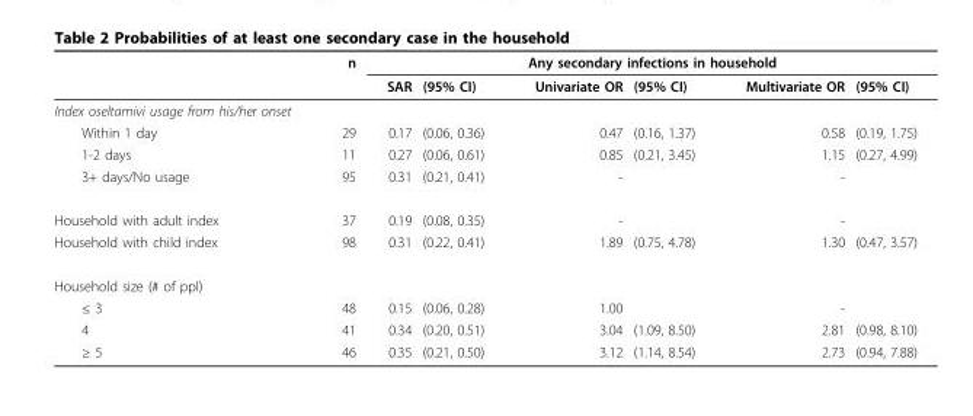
<table><thead><tr><td rowspan="2"></td><td rowspan="2">n</td><td colspan="6">Any secondary infections in household</td></tr><tr><td>SAR</td><td>(95% CI)</td><td>Univariate OR</td><td>(95% CI)</td><td>Multivariate OR</td><td>(95% CI)</td></tr></thead><tbody><tr><td colspan="8">Index oseltamivi usage from his/her onset</td></tr><tr><td>Within 1 day</td><td>29</td><td>0.17</td><td>(0.06, 0.36)</td><td>0.47</td><td>(0.16, 1.37)</td><td>0.58</td><td>(0.19, 1.75)</td></tr><tr><td>1-2 days</td><td>11</td><td>0.27</td><td>(0.06, 0.61)</td><td>0.85</td><td>(0.21, 3.45)</td><td>1.15</td><td>(0.27, 4.99)</td></tr><tr><td>3+ days/No usage</td><td>95</td><td>0.31</td><td>(0.21, 0.41)</td><td>-</td><td></td><td>-</td><td></td></tr><tr><td>Household with adult index</td><td>37</td><td>0.19</td><td>(0.08, 0.35)</td><td>-</td><td></td><td>-</td><td></td></tr><tr><td>Household with child index</td><td>98</td><td>0.31</td><td>(0.22, 0.41)</td><td>1.89</td><td>(0.75, 4.78)</td><td>1.30</td><td>(0.47, 3.57)</td></tr><tr><td colspan="8">Household size (# of ppl)</td></tr><tr><td>≤ 3</td><td>48</td><td>0.15</td><td>(0.06, 0.28)</td><td>1.00</td><td></td><td>-</td><td></td></tr><tr><td>4</td><td>41</td><td>0.34</td><td>(0.20, 0.51)</td><td>3.04</td><td>(1.09, 8.50)</td><td>2.81</td><td>(0.98, 8.10)</td></tr><tr><td>≥ 5</td><td>46</td><td>0.35</td><td>(0.21, 0.50)</td><td>3.12</td><td>(1.14, 8.54)</td><td>2.73</td><td>(0.94, 7.88)</td></tr></tbody></table>